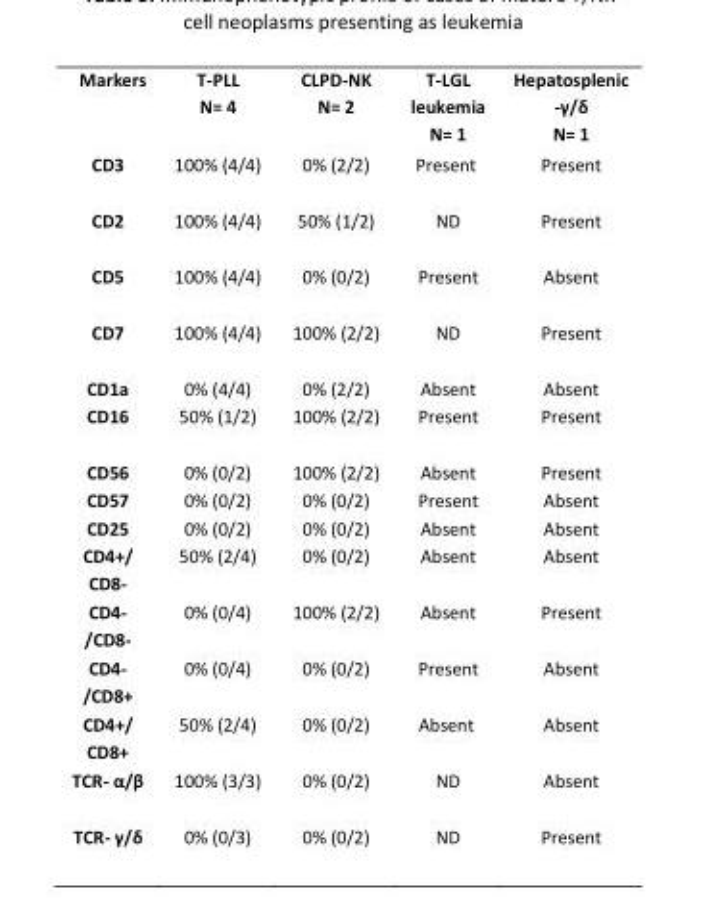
<table><tbody><tr><td>Markers</td><td>T-PLL N= 4</td><td>CLPD-NK N= 2</td><td>T-LGL leukemia N= 1</td><td>Hepatosplenic -γ/δ N= 1</td></tr><tr><td>CD3</td><td>100% (4/4)</td><td>0% (2/2)</td><td>Present</td><td>Present</td></tr><tr><td>CD2</td><td>100% (4/4)</td><td>50% (1/2)</td><td>ND</td><td>Present</td></tr><tr><td>CD5</td><td>100% (4/4)</td><td>0% (0/2)</td><td>Present</td><td>Absent</td></tr><tr><td>CD7</td><td>100% (4/4)</td><td>100% (2/2)</td><td>ND</td><td>Present</td></tr><tr><td>CD1a</td><td>0% (4/4)</td><td>0% (2/2)</td><td>Absent</td><td>Absent</td></tr><tr><td>CD16</td><td>50% (1/2)</td><td>100% (2/2)</td><td>Present</td><td>Present</td></tr><tr><td>CD56</td><td>0% (0/2)</td><td>100% (2/2)</td><td>Absent</td><td>Present</td></tr><tr><td>CD57</td><td>0% (0/2)</td><td>0% (0/2)</td><td>Present</td><td>Absent</td></tr><tr><td>CD25</td><td>0% (0/2)</td><td>0% (0/2)</td><td>Absent</td><td>Absent</td></tr><tr><td>CD4+/ CD8-</td><td>50% (2/4)</td><td>0% (0/2)</td><td>Absent</td><td>Absent</td></tr><tr><td>CD4- /CD8-</td><td>0% (0/4)</td><td>100% (2/2)</td><td>Absent</td><td>Present</td></tr><tr><td>CD4- /CD8+</td><td>0% (0/4)</td><td>0% (0/2)</td><td>Present</td><td>Absent</td></tr><tr><td>CD4+/ CD8+</td><td>50% (2/4)</td><td>0% (0/2)</td><td>Absent</td><td>Absent</td></tr><tr><td>TCR- α/β</td><td>100% (3/3)</td><td>0% (0/2)</td><td>ND</td><td>Absent</td></tr><tr><td>TCR- γ/δ</td><td>0% (0/3)</td><td>0% (0/2)</td><td>ND</td><td>Present</td></tr></tbody></table>